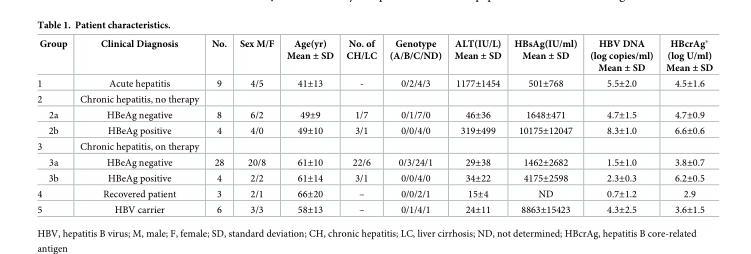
<table><thead><tr><td>Group</td><td>Clinical Diagnosis</td><td>No.</td><td>Sex M/F</td><td>Age(yr) Mean ± SD</td><td>No. of CH/LC</td><td>Genotype (A/B/C/ND)</td><td>ALT(IU/L) Mean ± SD</td><td>HBsAg(IU/ml) Mean ± SD</td><td>HBV DNA (log copies/ml) Mean ± SD</td><td>HBcrAg* (log U/ml) Mean ± SD</td></tr></thead><tbody><tr><td>1</td><td>Acute hepatitis</td><td>9</td><td>4/5</td><td>41±13</td><td>-</td><td>0/2/4/3</td><td>1177±1454</td><td>501±768</td><td>5.5±2.0</td><td>4.5±1.6</td></tr><tr><td>2</td><td>Chronic hepatitis, no therapy</td><td></td><td></td><td></td><td></td><td></td><td></td><td></td><td></td><td></td></tr><tr><td>2a</td><td>HBeAg negative</td><td>8</td><td>6/2</td><td>49±9</td><td>1/7</td><td>0/1/7/0</td><td>46±36</td><td>1648±471</td><td>4.7±1.5</td><td>4.7±0.9</td></tr><tr><td>2b</td><td>HBeAg positive</td><td>4</td><td>4/0</td><td>49±10</td><td>3/1</td><td>0/0/4/0</td><td>319±499</td><td>10175±12047</td><td>8.3±1.0</td><td>6.6±0.6</td></tr><tr><td>3</td><td>Chronic hepatitis, on therapy</td><td></td><td></td><td></td><td></td><td></td><td></td><td></td><td></td><td></td></tr><tr><td>3a</td><td>HBeAg negative</td><td>28</td><td>20/8</td><td>61±10</td><td>22/6</td><td>0/3/24/1</td><td>29±38</td><td>1462±2682</td><td>1.5±1.0</td><td>3.8±0.7</td></tr><tr><td>3b</td><td>HBeAg positive</td><td>4</td><td>2/2</td><td>61±14</td><td>3/1</td><td>0/0/4/0</td><td>34±22</td><td>4175±2598</td><td>2.3±0.3</td><td>6.2±0.5</td></tr><tr><td>4</td><td>Recovered patient</td><td>3</td><td>2/1</td><td>66±20</td><td>–</td><td>0/0/2/1</td><td>15±4</td><td>ND</td><td>0.7±1.2</td><td>2.9</td></tr><tr><td>5</td><td>HBV carrier</td><td>6</td><td>3/3</td><td>58±13</td><td>–</td><td>0/1/4/1</td><td>24±11</td><td>8863±15423</td><td>4.3±2.5</td><td>3.6±1.5</td></tr></tbody></table>